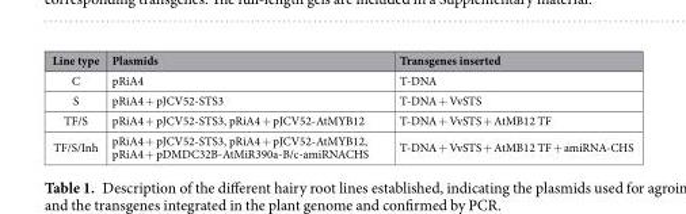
<table><thead><tr><td>Line type</td><td>Plasmids</td><td>Transgenes inserted</td></tr></thead><tbody><tr><td>C</td><td>pRiA4</td><td>T-DNA</td></tr><tr><td>S</td><td>pRiA4 + pJCV52-STS3</td><td>T-DNA + VvSTS</td></tr><tr><td>TF/S</td><td>pRiA4 + pJCV52-STS3, pRiA4 + pJCV52-AtMYB12</td><td>T-DNA + VvSTS + AtMB12 TF</td></tr><tr><td>TF/S/Inh</td><td>pRiA4 + pJCV52-STS3, pRiA4 + pJCV52-AtMYB12, pRiA4 + pDMDC32B-AtMiR390a-B/c-amiRNACHS</td><td>T-DNA + VvSTS + AtMB12 TF + amiRNA-CHS</td></tr></tbody></table>